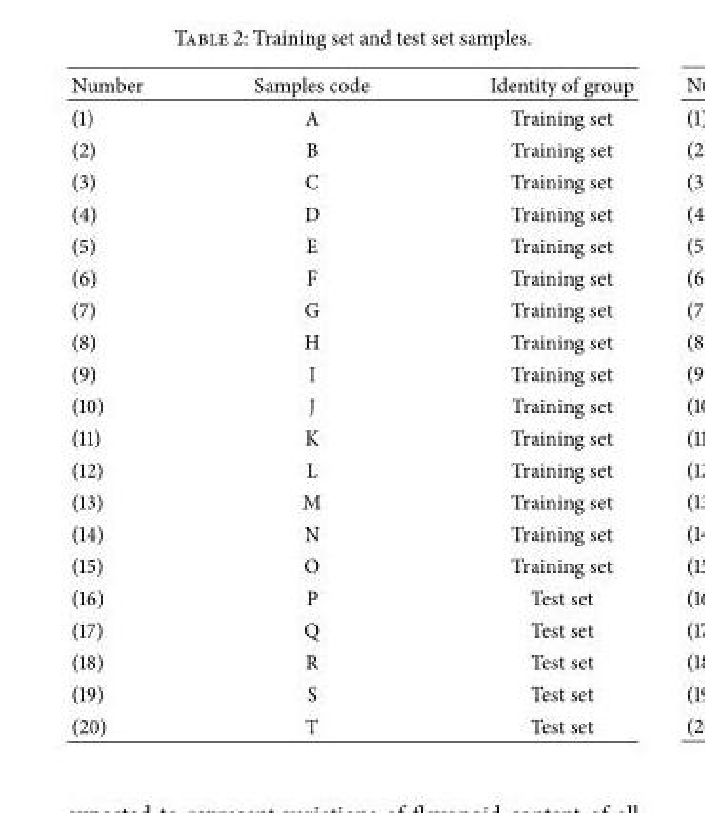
<table><thead><tr><td>Number</td><td>Samples code</td><td>Identity of group</td></tr></thead><tbody><tr><td>(1)</td><td>A</td><td>Training set</td></tr><tr><td>(2)</td><td>B</td><td>Training set</td></tr><tr><td>(3)</td><td>C</td><td>Training set</td></tr><tr><td>(4)</td><td>D</td><td>Training set</td></tr><tr><td>(5)</td><td>E</td><td>Training set</td></tr><tr><td>(6)</td><td>F</td><td>Training set</td></tr><tr><td>(7)</td><td>G</td><td>Training set</td></tr><tr><td>(8)</td><td>H</td><td>Training set</td></tr><tr><td>(9)</td><td>I</td><td>Training set</td></tr><tr><td>(10)</td><td>J</td><td>Training set</td></tr><tr><td>(11)</td><td>K</td><td>Training set</td></tr><tr><td>(12)</td><td>L</td><td>Training set</td></tr><tr><td>(13)</td><td>M</td><td>Training set</td></tr><tr><td>(14)</td><td>N</td><td>Training set</td></tr><tr><td>(15)</td><td>O</td><td>Training set</td></tr><tr><td>(16)</td><td>P</td><td>Test set</td></tr><tr><td>(17)</td><td>Q</td><td>Test set</td></tr><tr><td>(18)</td><td>R</td><td>Test set</td></tr><tr><td>(19)</td><td>S</td><td>Test set</td></tr><tr><td>(20)</td><td>T</td><td>Test set</td></tr></tbody></table>